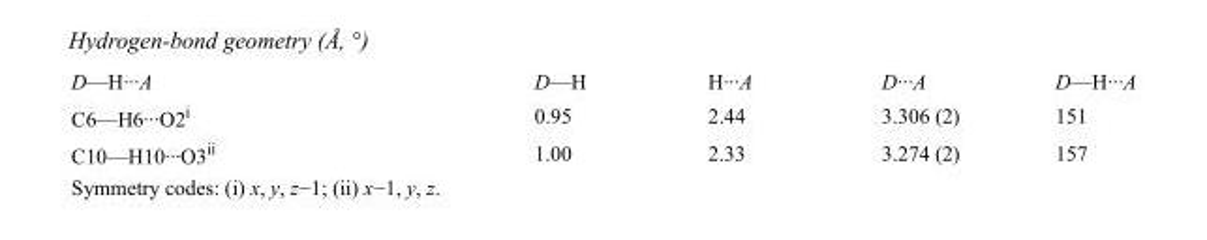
<table><tbody><tr><td>D—H···A</td><td>D—H</td><td>H···A</td><td>D···A</td><td>D—H···A</td></tr><tr><td>C6—H6···O2<sup>i</sup></td><td>0.95</td><td>2.44</td><td>3.306 (2)</td><td>151</td></tr><tr><td>C10—H10···O3<sup>ii</sup></td><td>1.00</td><td>2.33</td><td>3.274 (2)</td><td>157</td></tr></tbody></table>